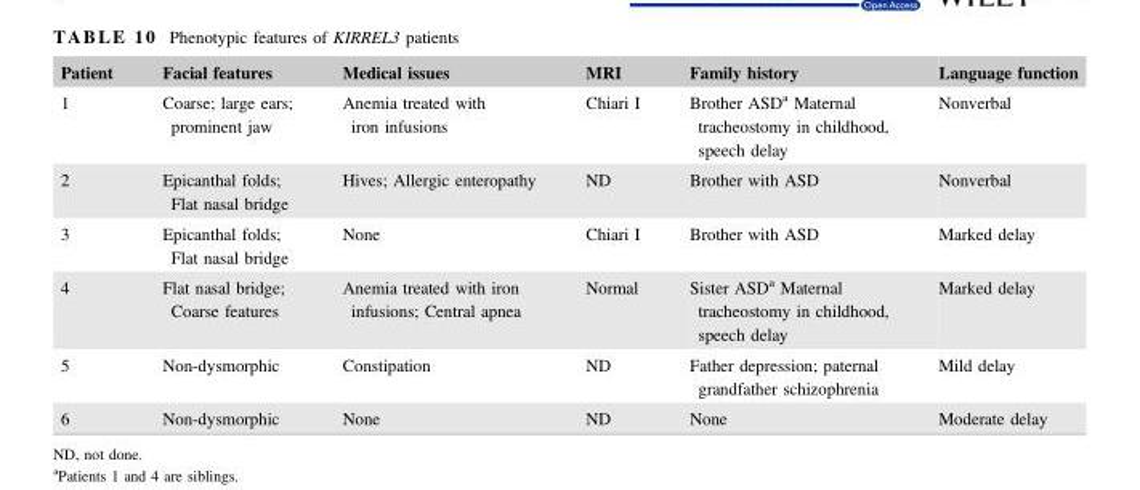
<table><thead><tr><td>Patient</td><td>Facial features</td><td>Medical issues</td><td>MRI</td><td>Family history</td><td>Language function</td></tr></thead><tbody><tr><td>1</td><td>Coarse; large ears; prominent jaw</td><td>Anemia treated with iron infusions</td><td>Chiari I</td><td>Brother ASD<sup>a</sup> Maternal tracheostomy in childhood, speech delay</td><td>Nonverbal</td></tr><tr><td>2</td><td>Epicanthal folds; Flat nasal bridge</td><td>Hives; Allergic enteropathy</td><td>ND</td><td>Brother with ASD</td><td>Nonverbal</td></tr><tr><td>3</td><td>Epicanthal folds; Flat nasal bridge</td><td>None</td><td>Chiari I</td><td>Brother with ASD</td><td>Marked delay</td></tr><tr><td>4</td><td>Flat nasal bridge; Coarse features</td><td>Anemia treated with iron infusions; Central apnea</td><td>Normal</td><td>Sister ASD<sup>a</sup> Maternal tracheostomy in childhood, speech delay</td><td>Marked delay</td></tr><tr><td>5</td><td>Non-dysmorphic</td><td>Constipation</td><td>ND</td><td>Father depression; paternal grandfather schizophrenia</td><td>Mild delay</td></tr><tr><td>6</td><td>Non-dysmorphic</td><td>None</td><td>ND</td><td>None</td><td>Moderate delay</td></tr></tbody></table>